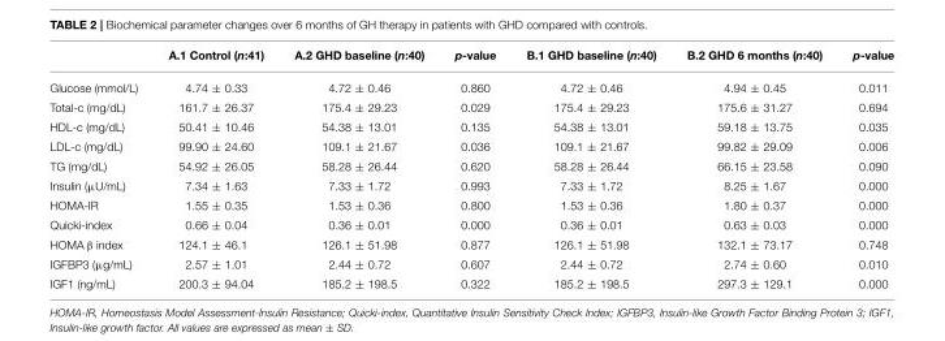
<table><thead><tr><td></td><td>A.1 Control (n:41)</td><td>A.2 GHD baseline (n:40)</td><td>p-value</td><td>B.1 GHD baseline (n:40)</td><td>B.2 GHD 6 months (n:40)</td><td>p-value</td></tr></thead><tbody><tr><td>Glucose (mmol/L)</td><td>4.74 ± 0.33</td><td>4.72 ± 0.46</td><td>0.860</td><td>4.72 ± 0.46</td><td>4.94 ± 0.45</td><td>0.011</td></tr><tr><td>Total-c (mg/dL)</td><td>161.7 ± 26.37</td><td>175.4 ± 29.23</td><td>0.029</td><td>175.4 ± 29.23</td><td>175.6 ± 31.27</td><td>0.694</td></tr><tr><td>HDL-c (mg/dL)</td><td>50.41 ± 10.46</td><td>54.38 ± 13.01</td><td>0.135</td><td>54.38 ± 13.01</td><td>59.18 ± 13.75</td><td>0.035</td></tr><tr><td>LDL-c (mg/dL)</td><td>99.90 ± 24.60</td><td>109.1 ± 21.67</td><td>0.036</td><td>109.1 ± 21.67</td><td>99.82 ± 29.09</td><td>0.006</td></tr><tr><td>TG (mg/dL)</td><td>54.92 ± 26.05</td><td>58.28 ± 26.44</td><td>0.620</td><td>58.28 ± 26.44</td><td>66.15 ± 23.58</td><td>0.090</td></tr><tr><td>Insulin (µU/mL)</td><td>7.34 ± 1.63</td><td>7.33 ± 1.72</td><td>0.993</td><td>7.33 ± 1.72</td><td>8.25 ± 1.67</td><td>0.000</td></tr><tr><td>HOMA-IR</td><td>1.55 ± 0.35</td><td>1.53 ± 0.36</td><td>0.800</td><td>1.53 ± 0.36</td><td>1.80 ± 0.37</td><td>0.000</td></tr><tr><td>Quicki-index</td><td>0.66 ± 0.04</td><td>0.36 ± 0.01</td><td>0.000</td><td>0.36 ± 0.01</td><td>0.63 ± 0.03</td><td>0.000</td></tr><tr><td>HOMA β index</td><td>124.1 ± 46.1</td><td>126.1 ± 51.98</td><td>0.877</td><td>126.1 ± 51.98</td><td>132.1 ± 73.17</td><td>0.748</td></tr><tr><td>IGFBP3 (µg/mL)</td><td>2.57 ± 1.01</td><td>2.44 ± 0.72</td><td>0.607</td><td>2.44 ± 0.72</td><td>2.74 ± 0.60</td><td>0.010</td></tr><tr><td>IGF1 (ng/mL)</td><td>200.3 ± 94.04</td><td>185.2 ± 198.5</td><td>0.322</td><td>185.2 ± 198.5</td><td>297.3 ± 129.1</td><td>0.000</td></tr></tbody></table>